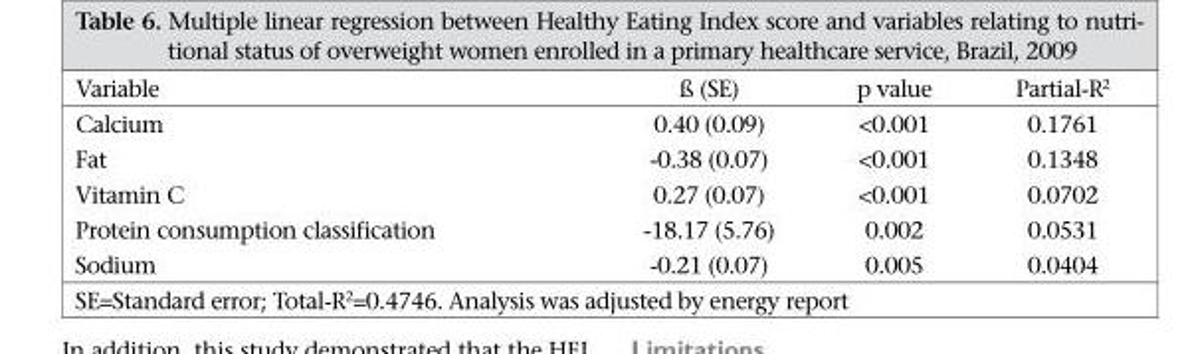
<table><thead><tr><td>Variable</td><td>ß (SE)</td><td>p value</td><td>Partial-R<sup>2</sup></td></tr></thead><tbody><tr><td>Calcium</td><td>0.40 (0.09)</td><td>&lt;0.001</td><td>0.1761</td></tr><tr><td>Fat</td><td>-0.38 (0.07)</td><td>&lt;0.001</td><td>0.1348</td></tr><tr><td>Vitamin C</td><td>0.27 (0.07)</td><td>&lt;0.001</td><td>0.0702</td></tr><tr><td>Protein consumption classification</td><td>-18.17 (5.76)</td><td>0.002</td><td>0.0531</td></tr><tr><td>Sodium</td><td>-0.21 (0.07)</td><td>0.005</td><td>0.0404</td></tr></tbody></table>